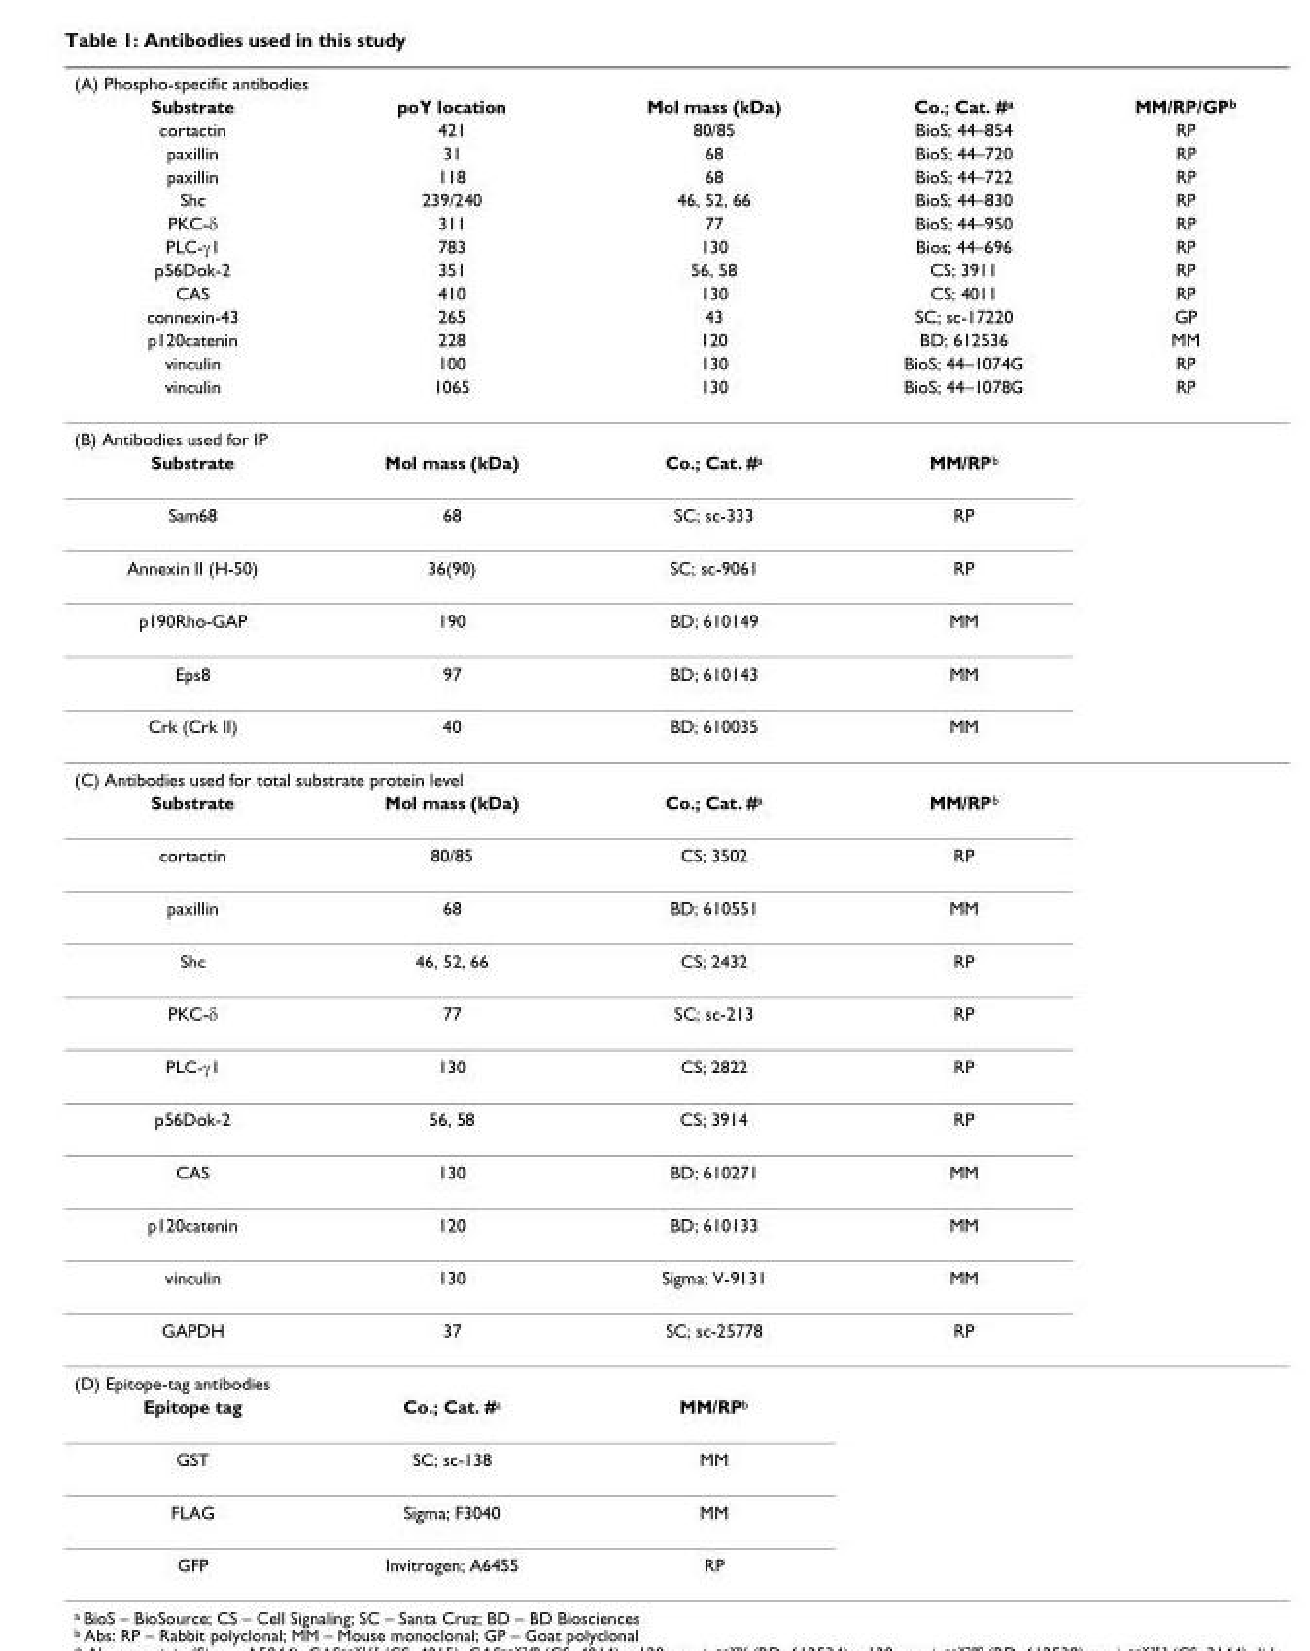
<table><thead><tr><td colspan="5">(A) Phospho-specific antibodies</td></tr><tr><td rowspan="13">Substrate cortactin paxillin paxillin Shc PKC-δ PLC-γ1 p56Dok-2 CAS connexin-43 p120catenin vinculin vinculin</td><td rowspan="13">poY location 421 31 118 239/240 311 783 351 410 265 228 100 1065</td><td rowspan="13">Mol mass (kDa) 80/85 68 68 46, 52, 66 77 130 56, 58 130 43 120 130 130</td><td rowspan="13">Co.; Cat. #a BioS; 44–854 BioS; 44–720 BioS; 44–722 BioS; 44–830 BioS; 44–950 Bios; 44–696 CS; 3911 CS; 4011 SC; sc-17220 BD; 612536 BioS; 44–1074G BioS; 44–1078G</td><td rowspan="13">MM/RP/GPb RP RP RP RP RP RP RP RP GP MM RP RP</td></tr><tr></tr><tr></tr><tr></tr><tr></tr><tr></tr><tr></tr><tr></tr><tr></tr><tr></tr><tr></tr><tr></tr><tr></tr></thead><tbody><tr><td colspan="5">(B) Antibodies used for IP</td></tr><tr><td>Substrate</td><td>Mol mass (kDa)</td><td>Co.; Cat. #a</td><td>MM/RPb</td><td></td></tr><tr><td>Sam68</td><td>68</td><td>SC; sc-333</td><td>RP</td><td></td></tr><tr><td>Annexin II (H-50)</td><td>36(90)</td><td>SC; sc-9061</td><td>RP</td><td></td></tr><tr><td>p190Rho-GAP</td><td>190</td><td>BD; 610149</td><td>MM</td><td></td></tr><tr><td>Eps8</td><td>97</td><td>BD; 610143</td><td>MM</td><td></td></tr><tr><td>Crk (Crk II)</td><td>40</td><td>BD; 610035</td><td>MM</td><td></td></tr><tr><td colspan="5">(C) Antibodies used for total substrate protein level</td></tr><tr><td>Substrate</td><td>Mol mass (kDa)</td><td>Co.; Cat. #a</td><td>MM/RPb</td><td></td></tr><tr><td>cortactin</td><td>80/85</td><td>CS; 3502</td><td>RP</td><td></td></tr><tr><td>paxillin</td><td>68</td><td>BD; 610551</td><td>MM</td><td></td></tr><tr><td>Shc</td><td>46, 52, 66</td><td>CS; 2432</td><td>RP</td><td></td></tr><tr><td>PKC-δ</td><td>77</td><td>SC; sc-213</td><td>RP</td><td></td></tr><tr><td>PLC-γ1</td><td>130</td><td>CS; 2822</td><td>RP</td><td></td></tr><tr><td>p56Dok-2</td><td>56, 58</td><td>CS; 3914</td><td>RP</td><td></td></tr><tr><td>CAS</td><td>130</td><td>BD; 610271</td><td>MM</td><td></td></tr><tr><td>p120catenin</td><td>120</td><td>BD; 610133</td><td>MM</td><td></td></tr><tr><td>vinculin</td><td>130</td><td>Sigma; V-9131</td><td>MM</td><td></td></tr><tr><td>GAPDH</td><td>37</td><td>SC; sc-25778</td><td>RP</td><td></td></tr><tr><td colspan="5">(D) Epitope-tag antibodies</td></tr><tr><td>Epitope tag</td><td>Co.; Cat. #a</td><td>MM/RPb</td><td></td><td></td></tr><tr><td>GST</td><td>SC; sc-138</td><td>MM</td><td></td><td></td></tr><tr><td>FLAG</td><td>Sigma; F3040</td><td>MM</td><td></td><td></td></tr><tr><td>GFP</td><td>Invitrogen; A6455</td><td>RP</td><td></td><td></td></tr></tbody></table>